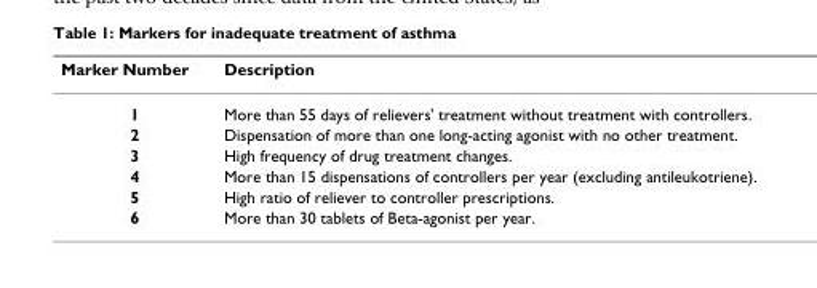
<table><thead><tr><td>Marker Number</td><td>Description</td></tr></thead><tbody><tr><td>1</td><td>More than 55 days of relievers&#x27; treatment without treatment with controllers.</td></tr><tr><td>2</td><td>Dispensation of more than one long-acting agonist with no other treatment.</td></tr><tr><td>3</td><td>High frequency of drug treatment changes.</td></tr><tr><td>4</td><td>More than 15 dispensations of controllers per year (excluding antileukotriene).</td></tr><tr><td>5</td><td>High ratio of reliever to controller prescriptions.</td></tr><tr><td>6</td><td>More than 30 tablets of Beta-agonist per year.</td></tr></tbody></table>